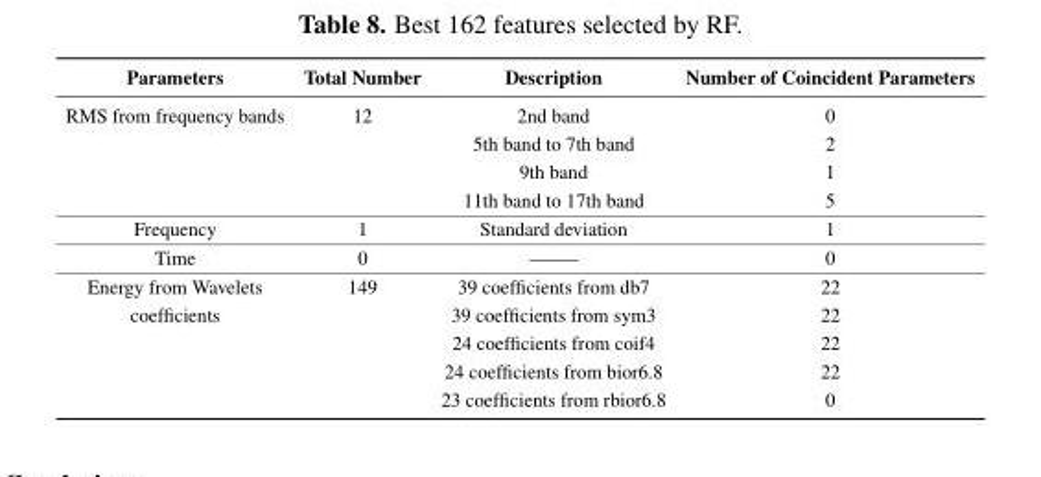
<table><thead><tr><td>Parameters</td><td>Total Number</td><td>Description</td><td>Number of Coincident Parameters</td></tr></thead><tbody><tr><td rowspan="4">RMS from frequency bands</td><td>12</td><td>2nd band</td><td>0</td></tr><tr><td></td><td>5th band to 7th band</td><td>2</td></tr><tr><td></td><td>9th band</td><td>1</td></tr><tr><td></td><td>11th band to 17th band</td><td>5</td></tr><tr><td>Frequency</td><td>1</td><td>Standard deviation</td><td>1</td></tr><tr><td>Time</td><td>0</td><td>——–</td><td>0</td></tr><tr><td>Energy from Wavelets</td><td>149</td><td>39 coefficients from db7</td><td>22</td></tr><tr><td rowspan="4">coefficients</td><td></td><td>39 coefficients from sym3</td><td>22</td></tr><tr><td></td><td>24 coefficients from coif4</td><td>22</td></tr><tr><td></td><td>24 coefficients from bior6.8</td><td>22</td></tr><tr><td></td><td>23 coefficients from rbior6.8</td><td>0</td></tr></tbody></table>